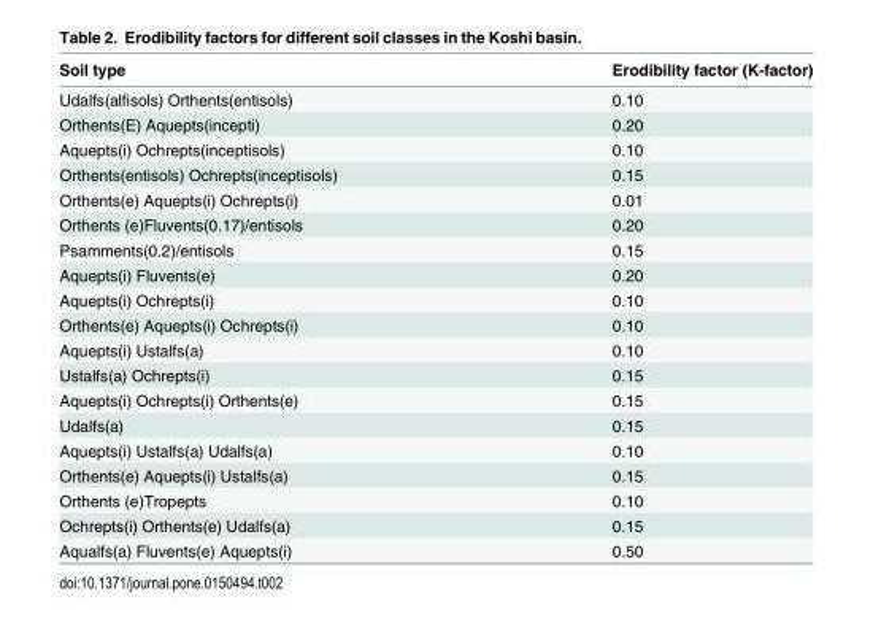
<table><thead><tr><td>Soil type</td><td>Erodibility factor (K-factor)</td></tr></thead><tbody><tr><td>Udalfs(alfisols) Orthents(entisols)</td><td>0.10</td></tr><tr><td>Orthents(E) Aquepts(incepti)</td><td>0.20</td></tr><tr><td>Aquepts(i) Ochrepts(inceptisols)</td><td>0.10</td></tr><tr><td>Orthents(entisols) Ochrepts(inceptisols)</td><td>0.15</td></tr><tr><td>Orthents(e) Aquepts(i) Ochrepts(i)</td><td>0.01</td></tr><tr><td>Orthents (e)Fluvents(0.17)/entisols</td><td>0.20</td></tr><tr><td>Psamments(0.2)/entisols</td><td>0.15</td></tr><tr><td>Aquepts(i) Fluvents(e)</td><td>0.20</td></tr><tr><td>Aquepts(i) Ochrepts(i)</td><td>0.10</td></tr><tr><td>Orthents(e) Aquepts(i) Ochrepts(i)</td><td>0.10</td></tr><tr><td>Aquepts(i) Ustalfs(a)</td><td>0.10</td></tr><tr><td>Ustalfs(a) Ochrepts(i)</td><td>0.15</td></tr><tr><td>Aquepts(i) Ochrepts(i) Orthents(e)</td><td>0.15</td></tr><tr><td>Udalfs(a)</td><td>0.15</td></tr><tr><td>Aquepts(i) Ustalfs(a) Udalfs(a)</td><td>0.10</td></tr><tr><td>Orthents(e) Aquepts(i) Ustalfs(a)</td><td>0.15</td></tr><tr><td>Orthents (e)Tropepts</td><td>0.10</td></tr><tr><td>Ochrepts(i) Orthents(e) Udalfs(a)</td><td>0.15</td></tr><tr><td>Aqualfs(a) Fluvents(e) Aquepts(i)</td><td>0.50</td></tr></tbody></table>